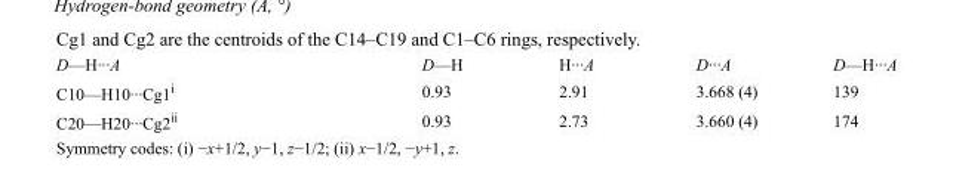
<table><tbody><tr><td>D—H···A</td><td>D—H</td><td>H···A</td><td>D···A</td><td>D—H···A</td></tr><tr><td>C10—H10···Cg1<sup>i</sup></td><td>0.93</td><td>2.91</td><td>3.668 (4)</td><td>139</td></tr><tr><td>C20—H20···Cg2<sup>ii</sup></td><td>0.93</td><td>2.73</td><td>3.660 (4)</td><td>174</td></tr></tbody></table>